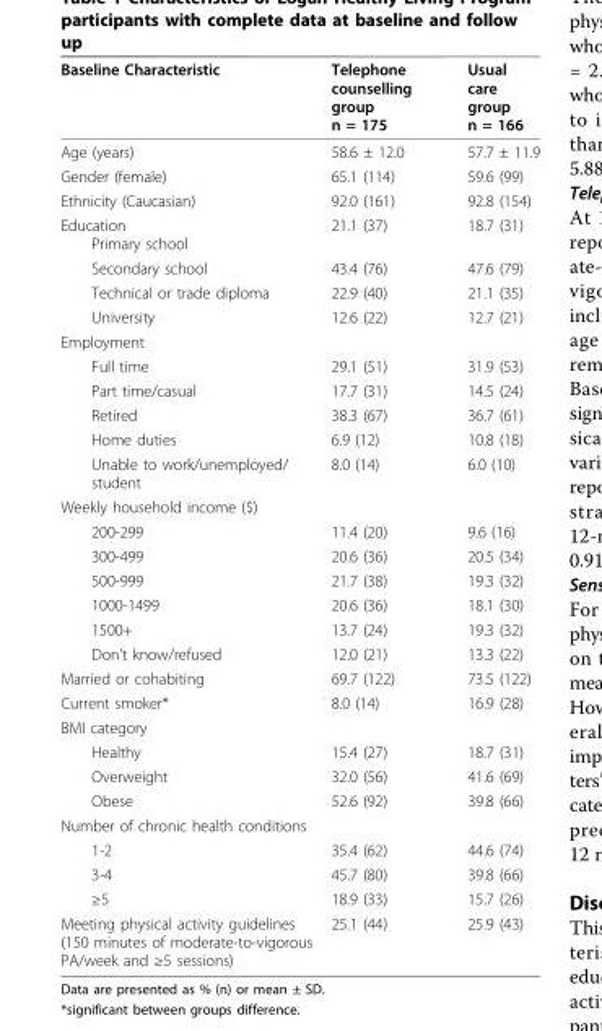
<table><thead><tr><td>Baseline Characteristic</td><td>Telephone counselling group n = 175</td><td>Usual care group n = 166</td></tr></thead><tbody><tr><td>Age (years)</td><td>58.6 ± 12.0</td><td>57.7 ± 11.9</td></tr><tr><td>Gender (female)</td><td>65.1 (114)</td><td>59.6 (99)</td></tr><tr><td>Ethnicity (Caucasian)</td><td>92.0 (161)</td><td>92.8 (154)</td></tr><tr><td>Education Primary school</td><td>21.1 (37)</td><td>18.7 (31)</td></tr><tr><td>Secondary school</td><td>43.4 (76)</td><td>47.6 (79)</td></tr><tr><td>Technical or trade diploma</td><td>22.9 (40)</td><td>21.1 (35)</td></tr><tr><td>University</td><td>12.6 (22)</td><td>12.7 (21)</td></tr><tr><td colspan="3">Employment</td></tr><tr><td>Full time</td><td>29.1 (51)</td><td>31.9 (53)</td></tr><tr><td>Part time/casual</td><td>17.7 (31)</td><td>14.5 (24)</td></tr><tr><td>Retired</td><td>38.3 (67)</td><td>36.7 (61)</td></tr><tr><td>Home duties</td><td>6.9 (12)</td><td>10.8 (18)</td></tr><tr><td>Unable to work/unemployed/ student</td><td>8.0 (14)</td><td>6.0 (10)</td></tr><tr><td colspan="3">Weekly household income ($)</td></tr><tr><td>200-299</td><td>11.4 (20)</td><td>9.6 (16)</td></tr><tr><td>300-499</td><td>20.6 (36)</td><td>20.5 (34)</td></tr><tr><td>500-999</td><td>21.7 (38)</td><td>19.3 (32)</td></tr><tr><td>1000-1499</td><td>20.6 (36)</td><td>18.1 (30)</td></tr><tr><td>1500+</td><td>13.7 (24)</td><td>19.3 (32)</td></tr><tr><td>Don’t know/refused</td><td>12.0 (21)</td><td>13.3 (22)</td></tr><tr><td>Married or cohabiting</td><td>69.7 (122)</td><td>73.5 (122)</td></tr><tr><td>Current smoker*</td><td>8.0 (14)</td><td>16.9 (28)</td></tr><tr><td colspan="3">BMI category</td></tr><tr><td>Healthy</td><td>15.4 (27)</td><td>18.7 (31)</td></tr><tr><td>Overweight</td><td>32.0 (56)</td><td>41.6 (69)</td></tr><tr><td>Obese</td><td>52.6 (92)</td><td>39.8 (66)</td></tr><tr><td colspan="3">Number of chronic health conditions</td></tr><tr><td>1-2</td><td>35.4 (62)</td><td>44.6 (74)</td></tr><tr><td>3-4</td><td>45.7 (80)</td><td>39.8 (66)</td></tr><tr><td>≥5</td><td>18.9 (33)</td><td>15.7 (26)</td></tr><tr><td>Meeting physical activity guidelines (150 minutes of moderate-to-vigorous PA/week and ≥5 sessions)</td><td>25.1 (44)</td><td>25.9 (43)</td></tr></tbody></table>